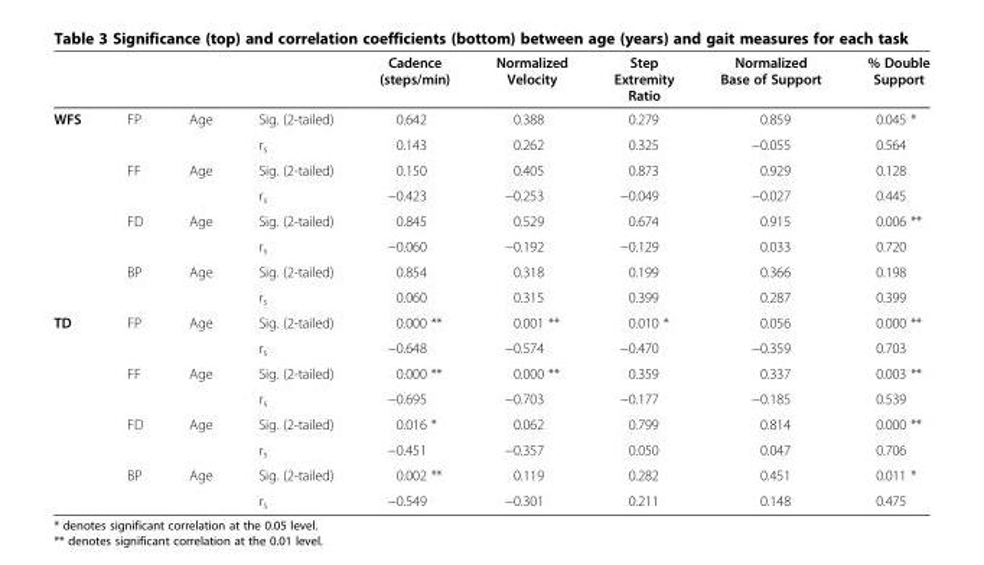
<table><thead><tr><td></td><td></td><td></td><td></td><td>Cadence (steps/min)</td><td>Normalized Velocity</td><td>Step Extremity Ratio</td><td>Normalized Base of Support</td><td>% Double Support</td></tr></thead><tbody><tr><td rowspan="8">WFS</td><td rowspan="2">FP</td><td rowspan="2">Age</td><td>Sig. (2-tailed)</td><td>0.642</td><td>0.388</td><td>0.279</td><td>0.859</td><td>0.045 *</td></tr><tr><td>r<sub>s</sub></td><td>0.143</td><td>0.262</td><td>0.325</td><td>−0.055</td><td>0.564</td></tr><tr><td rowspan="2">FF</td><td rowspan="2">Age</td><td>Sig. (2-tailed)</td><td>0.150</td><td>0.405</td><td>0.873</td><td>0.929</td><td>0.128</td></tr><tr><td>r<sub>s</sub></td><td>−0.423</td><td>−0.253</td><td>−0.049</td><td>−0.027</td><td>0.445</td></tr><tr><td rowspan="2">FD</td><td rowspan="2">Age</td><td>Sig. (2-tailed)</td><td>0.845</td><td>0.529</td><td>0.674</td><td>0.915</td><td>0.006 **</td></tr><tr><td>r<sub>s</sub></td><td>−0.060</td><td>−0.192</td><td>−0.129</td><td>0.033</td><td>0.720</td></tr><tr><td rowspan="2">BP</td><td rowspan="2">Age</td><td>Sig. (2-tailed)</td><td>0.854</td><td>0.318</td><td>0.199</td><td>0.366</td><td>0.198</td></tr><tr><td>r<sub>s</sub></td><td>0.060</td><td>0.315</td><td>0.399</td><td>0.287</td><td>0.399</td></tr><tr><td rowspan="8">TD</td><td rowspan="2">FP</td><td rowspan="2">Age</td><td>Sig. (2-tailed)</td><td>0.000 **</td><td>0.001 **</td><td>0.010 *</td><td>0.056</td><td>0.000 **</td></tr><tr><td>r<sub>s</sub></td><td>−0.648</td><td>−0.574</td><td>−0.470</td><td>−0.359</td><td>0.703</td></tr><tr><td rowspan="2">FF</td><td rowspan="2">Age</td><td>Sig. (2-tailed)</td><td>0.000 **</td><td>0.000 **</td><td>0.359</td><td>0.337</td><td>0.003 **</td></tr><tr><td>r<sub>s</sub></td><td>−0.695</td><td>−0.703</td><td>−0.177</td><td>−0.185</td><td>0.539</td></tr><tr><td rowspan="2">FD</td><td rowspan="2">Age</td><td>Sig. (2-tailed)</td><td>0.016 *</td><td>0.062</td><td>0.799</td><td>0.814</td><td>0.000 **</td></tr><tr><td>r<sub>s</sub></td><td>−0.451</td><td>−0.357</td><td>0.050</td><td>0.047</td><td>0.706</td></tr><tr><td>BP</td><td>Age</td><td>Sig. (2-tailed)</td><td>0.002 **</td><td>0.119</td><td>0.282</td><td>0.451</td><td>0.011 *</td></tr><tr><td></td><td></td><td>r<sub>s</sub></td><td>−0.549</td><td>−0.301</td><td>0.211</td><td>0.148</td><td>0.475</td></tr></tbody></table>